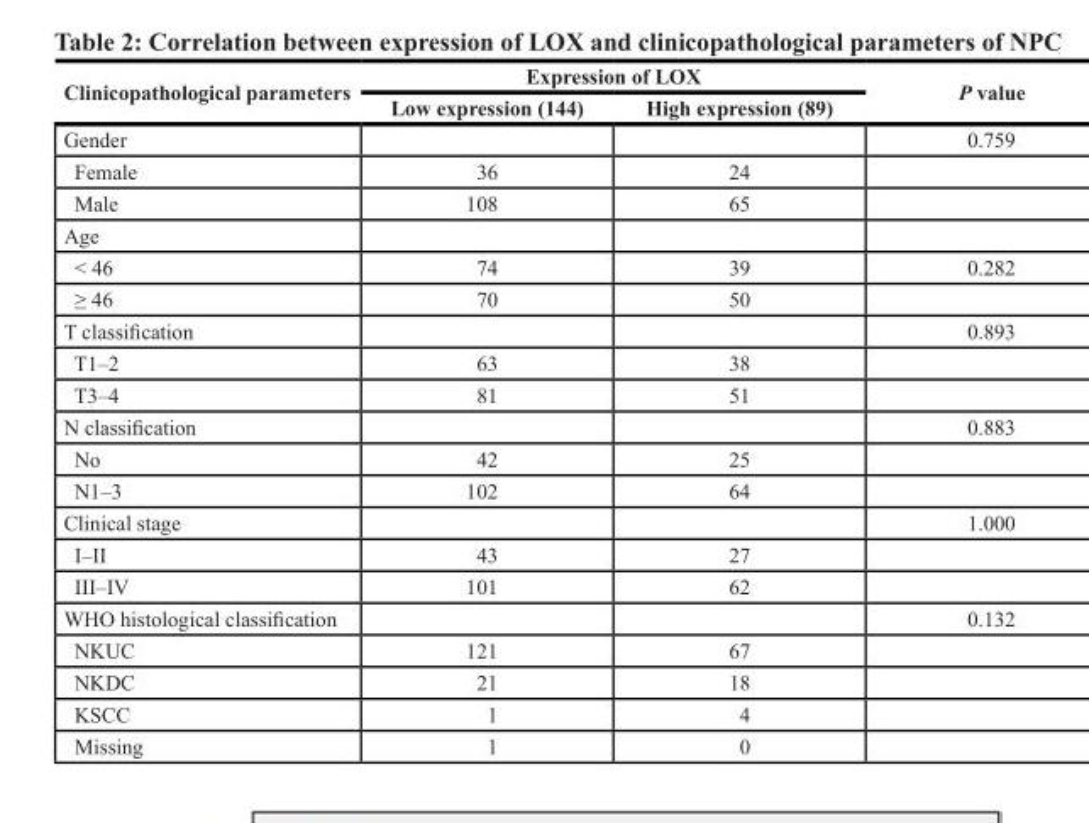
<table><thead><tr><td rowspan="2">Clinicopathological parameters</td><td colspan="2">Expression of LOX</td><td rowspan="2">P value</td></tr><tr><td>Low expression (144)</td><td>High expression (89)</td></tr></thead><tbody><tr><td>Gender</td><td></td><td></td><td>0.759</td></tr><tr><td>Female</td><td>36</td><td>24</td><td></td></tr><tr><td>Male</td><td>108</td><td>65</td><td></td></tr><tr><td colspan="4">Age</td></tr><tr><td>&lt; 46</td><td>74</td><td>39</td><td>0.282</td></tr><tr><td>≥ 46</td><td>70</td><td>50</td><td></td></tr><tr><td>T classification</td><td></td><td></td><td>0.893</td></tr><tr><td>T1–2</td><td>63</td><td>38</td><td></td></tr><tr><td>T3–4</td><td>81</td><td>51</td><td></td></tr><tr><td>N classification</td><td></td><td></td><td>0.883</td></tr><tr><td>No</td><td>42</td><td>25</td><td></td></tr><tr><td>N1–3</td><td>102</td><td>64</td><td></td></tr><tr><td>Clinical stage</td><td></td><td></td><td>1.000</td></tr><tr><td>I–II</td><td>43</td><td>27</td><td></td></tr><tr><td>III–IV</td><td>101</td><td>62</td><td></td></tr><tr><td>WHO histological classification</td><td></td><td></td><td>0.132</td></tr><tr><td>NKUC</td><td>121</td><td>67</td><td></td></tr><tr><td>NKDC</td><td>21</td><td>18</td><td></td></tr><tr><td>KSCC</td><td>1</td><td>4</td><td></td></tr><tr><td>Missing</td><td>1</td><td>0</td><td></td></tr></tbody></table>